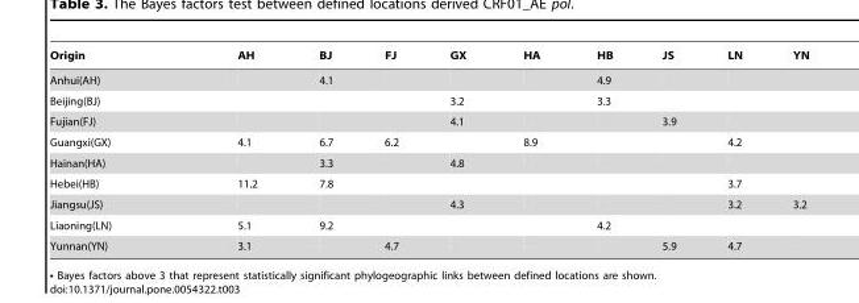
<table><thead><tr><td>Origin</td><td>AH</td><td>BJ</td><td>FJ</td><td>GX</td><td>HA</td><td>HB</td><td>JS</td><td>LN</td><td>YN</td></tr></thead><tbody><tr><td>Anhui(AH)</td><td></td><td>4.1</td><td></td><td></td><td></td><td>4.9</td><td></td><td></td><td></td></tr><tr><td>Beijing(BJ)</td><td></td><td></td><td></td><td>3.2</td><td></td><td>3.3</td><td></td><td></td><td></td></tr><tr><td>Fujian(FJ)</td><td></td><td></td><td></td><td>4.1</td><td></td><td></td><td>3.9</td><td></td><td></td></tr><tr><td>Guangxi(GX)</td><td>4.1</td><td>6.7</td><td>6.2</td><td></td><td>8.9</td><td></td><td></td><td>4.2</td><td></td></tr><tr><td>Hainan(HA)</td><td></td><td>3.3</td><td></td><td>4.8</td><td></td><td></td><td></td><td></td><td></td></tr><tr><td>Hebei(HB)</td><td>11.2</td><td>7.8</td><td></td><td></td><td></td><td></td><td></td><td>3.7</td><td></td></tr><tr><td>Jiangsu(JS)</td><td></td><td></td><td></td><td>4.3</td><td></td><td></td><td></td><td>3.2</td><td>3.2</td></tr><tr><td>Liaoning(LN)</td><td>5.1</td><td>9.2</td><td></td><td></td><td></td><td>4.2</td><td></td><td></td><td></td></tr><tr><td>Yunnan(YN)</td><td>3.1</td><td></td><td>4.7</td><td></td><td></td><td></td><td>5.9</td><td>4.7</td><td></td></tr></tbody></table>